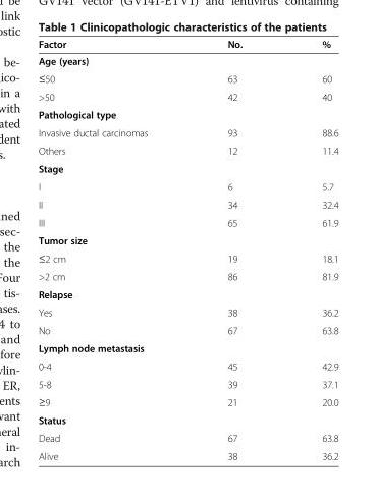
<table><thead><tr><td>Factor</td><td>No.</td><td>%</td></tr></thead><tbody><tr><td colspan="3">Age (years)</td></tr><tr><td>≤50</td><td>63</td><td>60</td></tr><tr><td>&gt;50</td><td>42</td><td>40</td></tr><tr><td colspan="3">Pathological type</td></tr><tr><td>Invasive ductal carcinomas</td><td>93</td><td>88.6</td></tr><tr><td>Others</td><td>12</td><td>11.4</td></tr><tr><td colspan="3">Stage</td></tr><tr><td>I</td><td>6</td><td>5.7</td></tr><tr><td>II</td><td>34</td><td>32.4</td></tr><tr><td>III</td><td>65</td><td>61.9</td></tr><tr><td colspan="3">Tumor size</td></tr><tr><td>≤2 cm</td><td>19</td><td>18.1</td></tr><tr><td>&gt;2 cm</td><td>86</td><td>81.9</td></tr><tr><td colspan="3">Relapse</td></tr><tr><td>Yes</td><td>38</td><td>36.2</td></tr><tr><td>No</td><td>67</td><td>63.8</td></tr><tr><td colspan="3">Lymph node metastasis</td></tr><tr><td>0-4</td><td>45</td><td>42.9</td></tr><tr><td>5-8</td><td>39</td><td>37.1</td></tr><tr><td>≥9</td><td>21</td><td>20.0</td></tr><tr><td colspan="3">Status</td></tr><tr><td>Dead</td><td>67</td><td>63.8</td></tr><tr><td>Alive</td><td>38</td><td>36.2</td></tr></tbody></table>